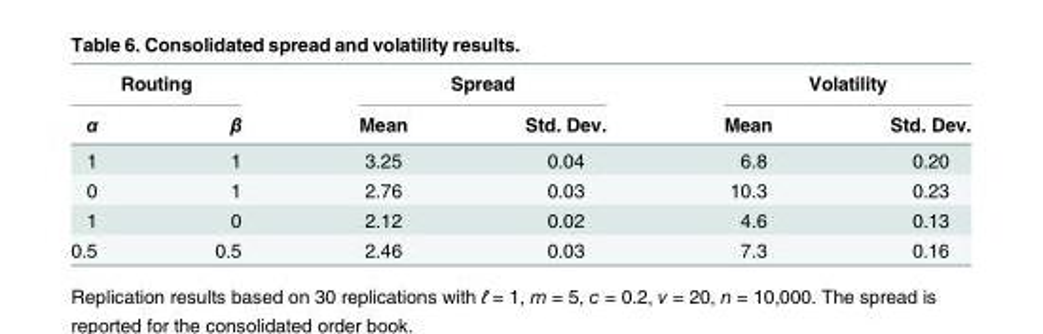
<table><thead><tr><td colspan="2">Routing</td><td colspan="2">Spread</td><td colspan="2">Volatility</td></tr><tr><td>α</td><td>β</td><td>Mean</td><td>Std. Dev.</td><td>Mean</td><td>Std. Dev.</td></tr></thead><tbody><tr><td>1</td><td>1</td><td>3.25</td><td>0.04</td><td>6.8</td><td>0.20</td></tr><tr><td>0</td><td>1</td><td>2.76</td><td>0.03</td><td>10.3</td><td>0.23</td></tr><tr><td>1</td><td>0</td><td>2.12</td><td>0.02</td><td>4.6</td><td>0.13</td></tr><tr><td>0.5</td><td>0.5</td><td>2.46</td><td>0.03</td><td>7.3</td><td>0.16</td></tr></tbody></table>